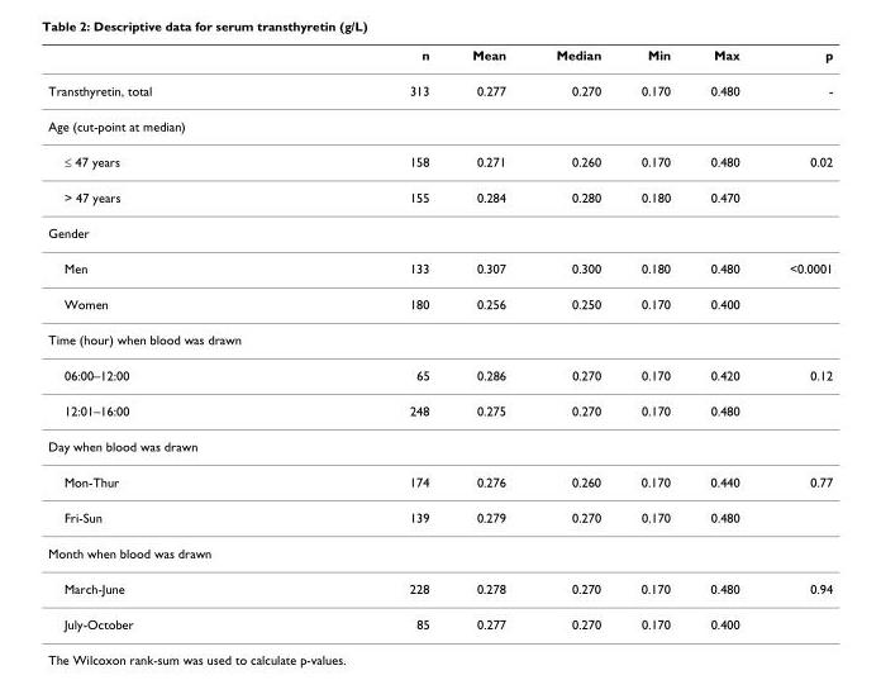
<table><thead><tr><td></td><td>n</td><td>Mean</td><td>Median</td><td>Min</td><td>Max</td><td>p</td></tr></thead><tbody><tr><td>Transthyretin, total</td><td>313</td><td>0.277</td><td>0.270</td><td>0.170</td><td>0.480</td><td>-</td></tr><tr><td colspan="7">Age (cut-point at median)</td></tr><tr><td>≤ 47 years</td><td>158</td><td>0.271</td><td>0.260</td><td>0.170</td><td>0.480</td><td>0.02</td></tr><tr><td>&gt; 47 years</td><td>155</td><td>0.284</td><td>0.280</td><td>0.180</td><td>0.470</td><td></td></tr><tr><td colspan="7">Gender</td></tr><tr><td>Men</td><td>133</td><td>0.307</td><td>0.300</td><td>0.180</td><td>0.480</td><td>&lt;0.0001</td></tr><tr><td>Women</td><td>180</td><td>0.256</td><td>0.250</td><td>0.170</td><td>0.400</td><td></td></tr><tr><td colspan="7">Time (hour) when blood was drawn</td></tr><tr><td>06:00–12:00</td><td>65</td><td>0.286</td><td>0.270</td><td>0.170</td><td>0.420</td><td>0.12</td></tr><tr><td>12:01–16:00</td><td>248</td><td>0.275</td><td>0.270</td><td>0.170</td><td>0.480</td><td></td></tr><tr><td colspan="7">Day when blood was drawn</td></tr><tr><td>Mon-Thur</td><td>174</td><td>0.276</td><td>0.260</td><td>0.170</td><td>0.440</td><td>0.77</td></tr><tr><td>Fri-Sun</td><td>139</td><td>0.279</td><td>0.270</td><td>0.170</td><td>0.480</td><td></td></tr><tr><td colspan="7">Month when blood was drawn</td></tr><tr><td>March-June</td><td>228</td><td>0.278</td><td>0.270</td><td>0.170</td><td>0.480</td><td>0.94</td></tr><tr><td>July-October</td><td>85</td><td>0.277</td><td>0.270</td><td>0.170</td><td>0.400</td><td></td></tr></tbody></table>